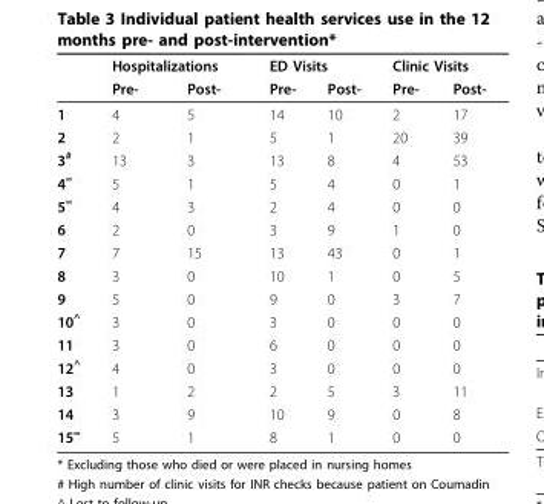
<table><thead><tr><td rowspan="2"></td><td colspan="2">Hospitalizations</td><td colspan="2">ED Visits</td><td colspan="2">Clinic Visits</td></tr><tr><td>Pre-</td><td>Post-</td><td>Pre-</td><td>Post-</td><td>Pre-</td><td>Post-</td></tr></thead><tbody><tr><td>1</td><td>4</td><td>5</td><td>14</td><td>10</td><td>2</td><td>17</td></tr><tr><td>2</td><td>2</td><td>1</td><td>5</td><td>1</td><td>20</td><td>39</td></tr><tr><td>3<sup>#</sup></td><td>13</td><td>3</td><td>13</td><td>8</td><td>4</td><td>53</td></tr><tr><td>4<sup>=</sup></td><td>5</td><td>1</td><td>5</td><td>4</td><td>0</td><td>1</td></tr><tr><td>5<sup>=</sup></td><td>4</td><td>3</td><td>2</td><td>4</td><td>0</td><td>0</td></tr><tr><td>6</td><td>2</td><td>0</td><td>3</td><td>9</td><td>1</td><td>0</td></tr><tr><td>7</td><td>7</td><td>15</td><td>13</td><td>43</td><td>0</td><td>1</td></tr><tr><td>8</td><td>3</td><td>0</td><td>10</td><td>1</td><td>0</td><td>5</td></tr><tr><td>9</td><td>5</td><td>0</td><td>9</td><td>0</td><td>3</td><td>7</td></tr><tr><td>10<sup>^</sup></td><td>3</td><td>0</td><td>3</td><td>0</td><td>0</td><td>0</td></tr><tr><td>11</td><td>3</td><td>0</td><td>6</td><td>0</td><td>0</td><td>0</td></tr><tr><td>12<sup>^</sup></td><td>4</td><td>0</td><td>3</td><td>0</td><td>0</td><td>0</td></tr><tr><td>13</td><td>1</td><td>2</td><td>2</td><td>5</td><td>3</td><td>11</td></tr><tr><td>14</td><td>3</td><td>9</td><td>10</td><td>9</td><td>0</td><td>8</td></tr><tr><td>15<sup>=</sup></td><td>5</td><td>1</td><td>8</td><td>1</td><td>0</td><td>0</td></tr></tbody></table>